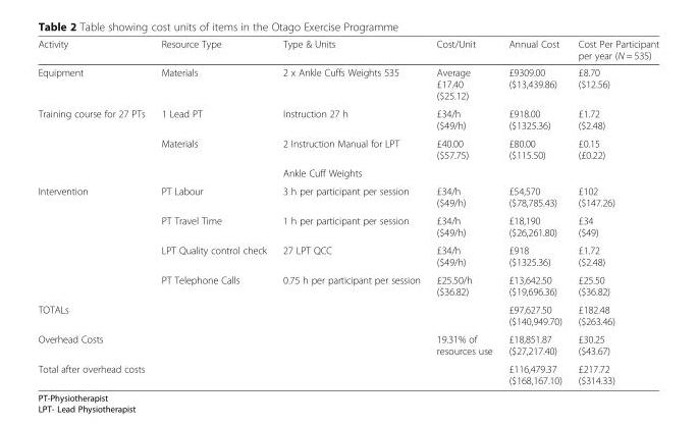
<table><thead><tr><td>Activity</td><td>Resource Type</td><td>Type &amp; Units</td><td>Cost/Unit</td><td>Annual Cost</td><td>Cost Per Participant per year (N = 535)</td></tr></thead><tbody><tr><td>Equipment</td><td>Materials</td><td>2 x Ankle Cuffs Weights 535</td><td>Average £17.40 ($25.12)</td><td>£9309.00 ($13,439.86)</td><td>£8.70 ($12.56)</td></tr><tr><td rowspan="3">Training course for 27 PTs</td><td>1 Lead PT</td><td>Instruction 27 h</td><td>£34/h ($49/h)</td><td>£918.00 ($1325.36)</td><td>£1.72 ($2.48)</td></tr><tr><td>Materials</td><td>2 Instruction Manual for LPT</td><td>£40.00 ($57.75)</td><td>£80.00 ($115.50)</td><td>£0.15 (£0.22)</td></tr><tr><td></td><td>Ankle Cuff Weights</td><td></td><td></td><td></td></tr><tr><td rowspan="4">Intervention</td><td>PT Labour</td><td>3 h per participant per session</td><td>£34/h ($49/h)</td><td>£54,570 ($78,785.43)</td><td>£102 ($147.26)</td></tr><tr><td>PT Travel Time</td><td>1 h per participant per session</td><td>£34/h ($49/h)</td><td>£18,190 ($26,261.80)</td><td>£34 ($49)</td></tr><tr><td>LPT Quality control check</td><td>27 LPT QCC</td><td>£34/h ($49/h)</td><td>£918 ($1325.36)</td><td>£1.72 ($2.48)</td></tr><tr><td>PT Telephone Calls</td><td>0.75 h per participant per session</td><td>£25.50/h ($36.82)</td><td>£13,642.50 ($19,696.36)</td><td>£25.50 ($36.82)</td></tr><tr><td>TOTALs</td><td></td><td></td><td></td><td>£97,627.50 ($140,949.70)</td><td>£182.48 ($263.46)</td></tr><tr><td>Overhead Costs</td><td></td><td></td><td>19.31% of resources use</td><td>£18,851.87 ($27,217.40)</td><td>£30.25 ($43.67)</td></tr><tr><td>Total after overhead costs</td><td></td><td></td><td></td><td>£116,479.37 ($168,167.10)</td><td>£217.72 ($314.33)</td></tr></tbody></table>